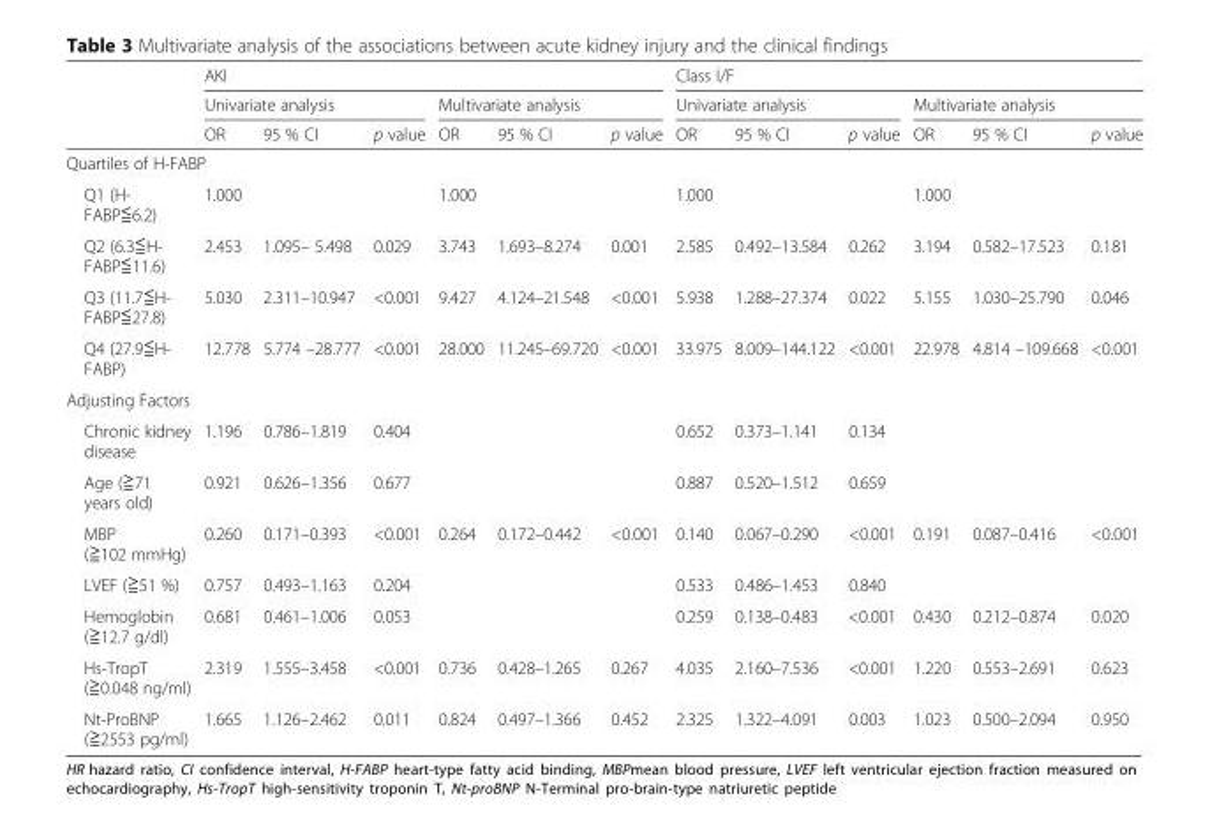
<table><thead><tr><td rowspan="3"></td><td colspan="6">AKI</td><td colspan="6">Class I/F</td></tr><tr><td colspan="3">Univariate analysis</td><td colspan="3">Multivariate analysis</td><td colspan="3">Univariate analysis</td><td colspan="3">Multivariate analysis</td></tr><tr><td>OR</td><td>95 % CI</td><td>p value</td><td>OR</td><td>95 % CI</td><td>p value</td><td>OR</td><td>95 % CI</td><td>p value</td><td>OR</td><td>95 % CI</td><td>p value</td></tr></thead><tbody><tr><td colspan="13">Quartiles of H-FABP</td></tr><tr><td>Q1 (H- FABP≦6.2)</td><td>1.000</td><td></td><td></td><td>1.000</td><td></td><td></td><td>1.000</td><td></td><td></td><td>1.000</td><td></td><td></td></tr><tr><td>Q2 (6.3≦H- FABP≦11.6)</td><td>2.453</td><td>1.095– 5.498</td><td>0.029</td><td>3.743</td><td>1.693–8.274</td><td>0.001</td><td>2.585</td><td>0.492–13.584</td><td>0.262</td><td>3.194</td><td>0.582–17.523</td><td>0.181</td></tr><tr><td>Q3 (11.7≦H- FABP≦27.8)</td><td>5.030</td><td>2.311–10.947</td><td>&lt;0.001</td><td>9.427</td><td>4.124–21.548</td><td>&lt;0.001</td><td>5.938</td><td>1.288–27.374</td><td>0.022</td><td>5.155</td><td>1.030–25.790</td><td>0.046</td></tr><tr><td>Q4 (27.9≦H- FABP)</td><td>12.778</td><td>5.774 –28.777</td><td>&lt;0.001</td><td>28.000</td><td>11.245–69.720</td><td>&lt;0.001</td><td>33.975</td><td>8.009–144.122</td><td>&lt;0.001</td><td>22.978</td><td>4.814 –109.668</td><td>&lt;0.001</td></tr><tr><td colspan="13">Adjusting Factors</td></tr><tr><td>Chronic kidney disease</td><td>1.196</td><td>0.786–1.819</td><td>0.404</td><td></td><td></td><td></td><td>0.652</td><td>0.373–1.141</td><td>0.134</td><td></td><td></td><td></td></tr><tr><td>Age (≧71 years old)</td><td>0.921</td><td>0.626–1.356</td><td>0.677</td><td></td><td></td><td></td><td>0.887</td><td>0.520–1.512</td><td>0.659</td><td></td><td></td><td></td></tr><tr><td>MBP (≧102 mmHg)</td><td>0.260</td><td>0.171–0.393</td><td>&lt;0.001</td><td>0.264</td><td>0.172–0.442</td><td>&lt;0.001</td><td>0.140</td><td>0.067–0.290</td><td>&lt;0.001</td><td>0.191</td><td>0.087–0.416</td><td>&lt;0.001</td></tr><tr><td>LVEF (≧51 %)</td><td>0.757</td><td>0.493–1.163</td><td>0.204</td><td></td><td></td><td></td><td>0.533</td><td>0.486–1.453</td><td>0.840</td><td></td><td></td><td></td></tr><tr><td>Hemoglobin (≧12.7 g/dl)</td><td>0.681</td><td>0.461–1.006</td><td>0.053</td><td></td><td></td><td></td><td>0.259</td><td>0.138–0.483</td><td>&lt;0.001</td><td>0.430</td><td>0.212–0.874</td><td>0.020</td></tr><tr><td>Hs-TropT (≧0.048 ng/ml)</td><td>2.319</td><td>1.555–3.458</td><td>&lt;0.001</td><td>0.736</td><td>0.428–1.265</td><td>0.267</td><td>4.035</td><td>2.160–7.536</td><td>&lt;0.001</td><td>1.220</td><td>0.553–2.691</td><td>0.623</td></tr><tr><td>Nt-ProBNP (≧2553 pg/ml)</td><td>1.665</td><td>1.126–2.462</td><td>0.011</td><td>0.824</td><td>0.497–1.366</td><td>0.452</td><td>2.325</td><td>1.322–4.091</td><td>0.003</td><td>1.023</td><td>0.500–2.094</td><td>0.950</td></tr></tbody></table>